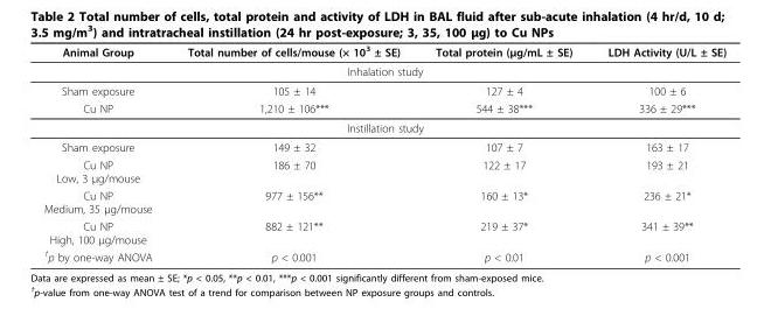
<table><thead><tr><td>Animal Group</td><td>Total number of cells/mouse (× 10<sup>3</sup> ± SE)</td><td>Total protein (μg/mL ± SE)</td><td>LDH Activity (U/L ± SE)</td></tr></thead><tbody><tr><td colspan="4">Inhalation study</td></tr><tr><td>Sham exposure</td><td>105 ± 14</td><td>127 ± 4</td><td>100 ± 6</td></tr><tr><td>Cu NP</td><td>1,210 ± 106***</td><td>544 ± 38***</td><td>336 ± 29***</td></tr><tr><td colspan="4">Instillation study</td></tr><tr><td>Sham exposure</td><td>149 ± 32</td><td>107 ± 7</td><td>163 ± 17</td></tr><tr><td>Cu NP Low, 3 μg/mouse</td><td>186 ± 70</td><td>122 ± 17</td><td>193 ± 21</td></tr><tr><td>Cu NP Medium, 35 μg/mouse</td><td>977 ± 156**</td><td>160 ± 13*</td><td>236 ± 21*</td></tr><tr><td>Cu NP High, 100 μg/mouse</td><td>882 ± 121**</td><td>219 ± 37*</td><td>341 ± 39**</td></tr><tr><td><sup>†</sup>p by one-way ANOVA</td><td>p &lt; 0.001</td><td>p &lt; 0.01</td><td>p &lt; 0.001</td></tr></tbody></table>